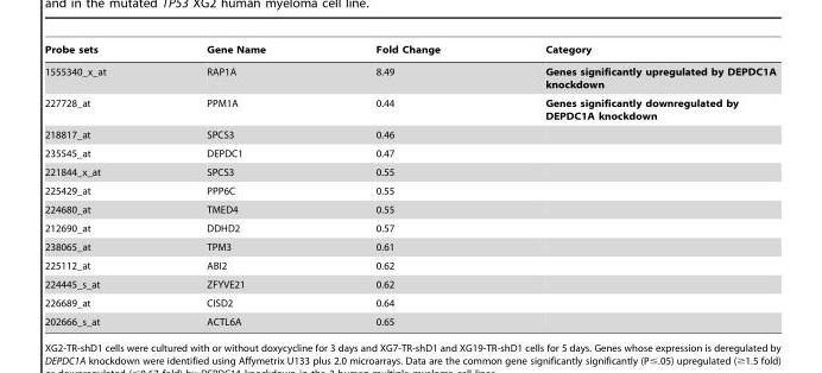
<table><thead><tr><td>Probe sets</td><td>Gene Name</td><td>Fold Change</td><td>Category</td></tr></thead><tbody><tr><td>1555340_x_at</td><td>RAP1A</td><td>8.49</td><td>Genes significantly upregulated by DEPDC1A knockdown</td></tr><tr><td>227728_at</td><td>PPM1A</td><td>0.44</td><td>Genes significantly downregulated by DEPDC1A knockdown</td></tr><tr><td>218817_at</td><td>SPCS3</td><td>0.46</td><td></td></tr><tr><td>235545_at</td><td>DEPDC1</td><td>0.47</td><td></td></tr><tr><td>221844_x_at</td><td>SPCS3</td><td>0.55</td><td></td></tr><tr><td>225429_at</td><td>PPP6C</td><td>0.55</td><td></td></tr><tr><td>224680_at</td><td>TMED4</td><td>0.55</td><td></td></tr><tr><td>212690_at</td><td>DDHD2</td><td>0.57</td><td></td></tr><tr><td>238065_at</td><td>TPM3</td><td>0.61</td><td></td></tr><tr><td>225112_at</td><td>ABI2</td><td>0.62</td><td></td></tr><tr><td>224445_s_at</td><td>ZFYVE21</td><td>0.62</td><td></td></tr><tr><td>226689_at</td><td>CISD2</td><td>0.64</td><td></td></tr><tr><td>202666_s_at</td><td>ACTL6A</td><td>0.65</td><td></td></tr></tbody></table>